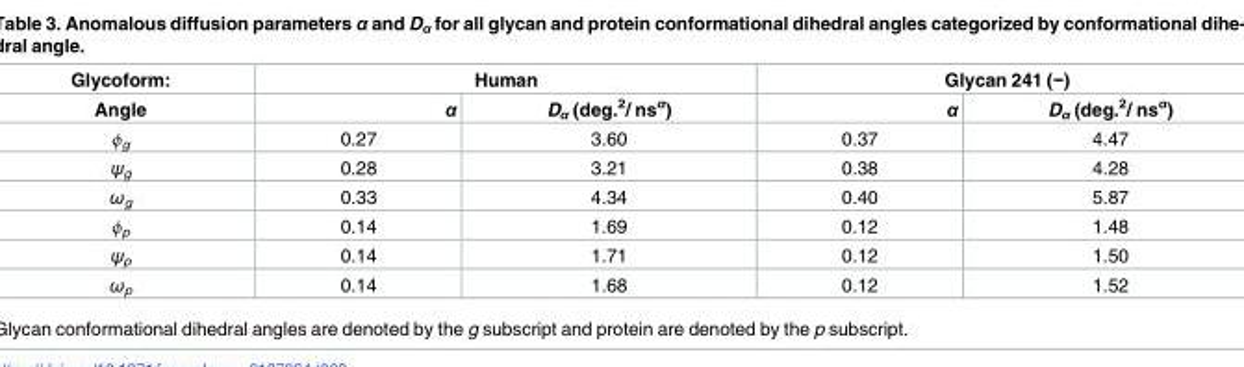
<table><thead><tr><td rowspan="2">Glycoform: Angle</td><td colspan="2">Human</td><td colspan="2">Glycan 241 (−)</td></tr><tr><td>α</td><td>D<sub>α</sub> (deg.<sup>2</sup>/ ns<sup>α</sup>)</td><td>α</td><td>D<sub>α</sub> (deg.<sup>2</sup>/ ns<sup>α</sup>)</td></tr></thead><tbody><tr><td>ϕ<sub>g</sub></td><td>0.27</td><td>3.60</td><td>0.37</td><td>4.47</td></tr><tr><td>ψ<sub>g</sub></td><td>0.28</td><td>3.21</td><td>0.38</td><td>4.28</td></tr><tr><td>ω<sub>g</sub></td><td>0.33</td><td>4.34</td><td>0.40</td><td>5.87</td></tr><tr><td>ϕ<sub>p</sub></td><td>0.14</td><td>1.69</td><td>0.12</td><td>1.48</td></tr><tr><td>ψ<sub>p</sub></td><td>0.14</td><td>1.71</td><td>0.12</td><td>1.50</td></tr><tr><td>ω<sub>p</sub></td><td>0.14</td><td>1.68</td><td>0.12</td><td>1.52</td></tr></tbody></table>